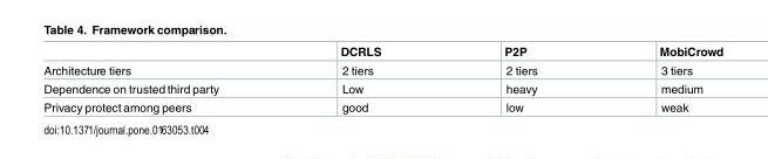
<table><thead><tr><td></td><td>DCRLS</td><td>P2P</td><td>MobiCrowd</td></tr></thead><tbody><tr><td>Architecture tiers</td><td>2 tiers</td><td>2 tiers</td><td>3 tiers</td></tr><tr><td>Dependence on trusted third party</td><td>Low</td><td>heavy</td><td>medium</td></tr><tr><td>Privacy protect among peers</td><td>good</td><td>low</td><td>weak</td></tr></tbody></table>